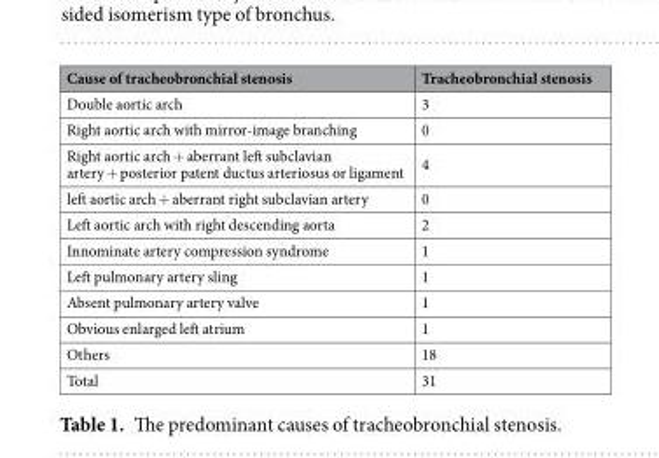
<table><thead><tr><td>Cause of tracheobronchial stenosis</td><td>Tracheobronchial stenosis</td></tr></thead><tbody><tr><td>Double aortic arch</td><td>3</td></tr><tr><td>Right aortic arch with mirror-image branching</td><td>0</td></tr><tr><td>Right aortic arch + aberrant left subclavian artery + posterior patent ductus arteriosus or ligament</td><td>4</td></tr><tr><td>left aortic arch + aberrant right subclavian artery</td><td>0</td></tr><tr><td>Left aortic arch with right descending aorta</td><td>2</td></tr><tr><td>Innominate artery compression syndrome</td><td>1</td></tr><tr><td>Left pulmonary artery sling</td><td>1</td></tr><tr><td>Absent pulmonary artery valve</td><td>1</td></tr><tr><td>Obvious enlarged left atrium</td><td>1</td></tr><tr><td>Others</td><td>18</td></tr><tr><td>Total</td><td>31</td></tr></tbody></table>